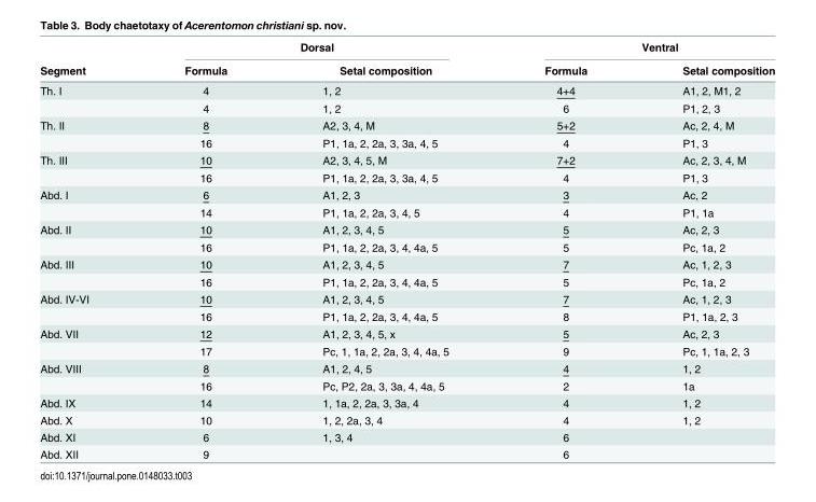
<table><thead><tr><td rowspan="2">Segment</td><td colspan="2">Dorsal</td><td colspan="2">Ventral</td></tr><tr><td>Formula</td><td>Setal composition</td><td>Formula</td><td>Setal composition</td></tr></thead><tbody><tr><td rowspan="2">Th. I</td><td>4</td><td>1, 2</td><td>4+4</td><td>A1, 2, M1, 2</td></tr><tr><td>4</td><td>1, 2</td><td>6</td><td>P1, 2, 3</td></tr><tr><td rowspan="2">Th. II</td><td>8</td><td>A2, 3, 4, M</td><td>5+2</td><td>Ac, 2, 4, M</td></tr><tr><td>16</td><td>P1, 1a, 2, 2a, 3, 3a, 4, 5</td><td>4</td><td>P1, 3</td></tr><tr><td rowspan="2">Th. III</td><td>10</td><td>A2, 3, 4, 5, M</td><td>7+2</td><td>Ac, 2, 3, 4, M</td></tr><tr><td>16</td><td>P1, 1a, 2, 2a, 3, 3a, 4, 5</td><td>4</td><td>P1, 3</td></tr><tr><td rowspan="2">Abd. I</td><td>6</td><td>A1, 2, 3</td><td>3</td><td>Ac, 2</td></tr><tr><td>14</td><td>P1, 1a, 2, 2a, 3, 4, 5</td><td>4</td><td>P1, 1a</td></tr><tr><td rowspan="2">Abd. II</td><td>10</td><td>A1, 2, 3, 4, 5</td><td>5</td><td>Ac, 2, 3</td></tr><tr><td>16</td><td>P1, 1a, 2, 2a, 3, 4, 4a, 5</td><td>5</td><td>Pc, 1a, 2</td></tr><tr><td rowspan="2">Abd. III</td><td>10</td><td>A1, 2, 3, 4, 5</td><td>7</td><td>Ac, 1, 2, 3</td></tr><tr><td>16</td><td>P1, 1a, 2, 2a, 3, 4, 4a, 5</td><td>5</td><td>Pc, 1a, 2</td></tr><tr><td rowspan="2">Abd. IV-VI</td><td>10</td><td>A1, 2, 3, 4, 5</td><td>7</td><td>Ac, 1, 2, 3</td></tr><tr><td>16</td><td>P1, 1a, 2, 2a, 3, 4, 4a, 5</td><td>8</td><td>P1, 1a, 2, 3</td></tr><tr><td rowspan="2">Abd. VII</td><td>12</td><td>A1, 2, 3, 4, 5, x</td><td>5</td><td>Ac, 2, 3</td></tr><tr><td>17</td><td>Pc, 1, 1a, 2, 2a, 3, 4, 4a, 5</td><td>9</td><td>Pc, 1, 1a, 2, 3</td></tr><tr><td rowspan="2">Abd. VIII</td><td>8</td><td>A1, 2, 4, 5</td><td>4</td><td>1, 2</td></tr><tr><td>16</td><td>Pc, P2, 2a, 3, 3a, 4, 4a, 5</td><td>2</td><td>1a</td></tr><tr><td>Abd. IX</td><td>14</td><td>1, 1a, 2, 2a, 3, 3a, 4</td><td>4</td><td>1, 2</td></tr><tr><td>Abd. X</td><td>10</td><td>1, 2, 2a, 3, 4</td><td>4</td><td>1, 2</td></tr><tr><td>Abd. XI</td><td>6</td><td>1, 3, 4</td><td>6</td><td></td></tr><tr><td>Abd. XII</td><td>9</td><td></td><td>6</td><td></td></tr></tbody></table>